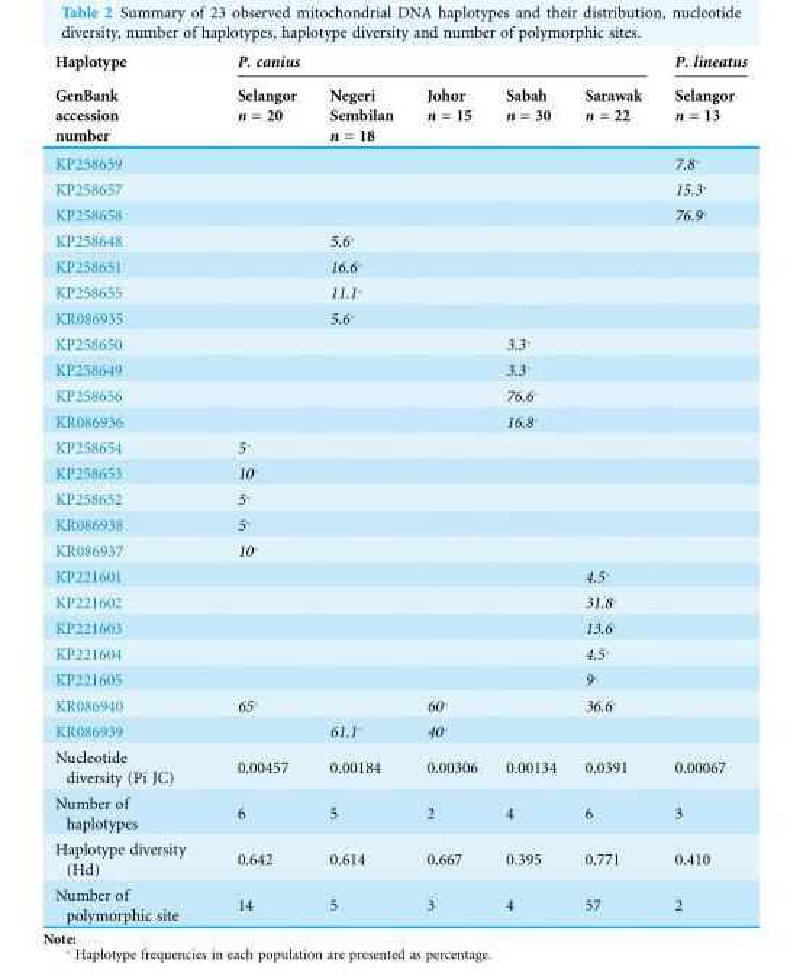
<table><thead><tr><td rowspan="2">Haplotype GenBank accession number</td><td colspan="5">P. canius</td><td rowspan="2">P. lineatus Selangor n = 13</td></tr><tr><td>Selangor n = 20</td><td>Negeri Sembilan n = 18</td><td>Johor n = 15</td><td>Sabah n = 30</td><td>Sarawak n = 22</td></tr></thead><tbody><tr><td>KP258659</td><td></td><td></td><td></td><td></td><td></td><td>7.8*</td></tr><tr><td>KP258657</td><td></td><td></td><td></td><td></td><td></td><td>15.3*</td></tr><tr><td>KP258658</td><td></td><td></td><td></td><td></td><td></td><td>76.9*</td></tr><tr><td>KP258648</td><td></td><td>5.6*</td><td></td><td></td><td></td><td></td></tr><tr><td>KP258651</td><td></td><td>16.6*</td><td></td><td></td><td></td><td></td></tr><tr><td>KP258655</td><td></td><td>11.1*</td><td></td><td></td><td></td><td></td></tr><tr><td>KR086935</td><td></td><td>5.6*</td><td></td><td></td><td></td><td></td></tr><tr><td>KP258650</td><td></td><td></td><td></td><td>3.3*</td><td></td><td></td></tr><tr><td>KP258649</td><td></td><td></td><td></td><td>3.3*</td><td></td><td></td></tr><tr><td>KP258656</td><td></td><td></td><td></td><td>76.6*</td><td></td><td></td></tr><tr><td>KR086936</td><td></td><td></td><td></td><td>16.8*</td><td></td><td></td></tr><tr><td>KP258654</td><td>5*</td><td></td><td></td><td></td><td></td><td></td></tr><tr><td>KP258653</td><td>10*</td><td></td><td></td><td></td><td></td><td></td></tr><tr><td>KP258652</td><td>5*</td><td></td><td></td><td></td><td></td><td></td></tr><tr><td>KR086938</td><td>5*</td><td></td><td></td><td></td><td></td><td></td></tr><tr><td>KR086937</td><td>10*</td><td></td><td></td><td></td><td></td><td></td></tr><tr><td>KP221601</td><td></td><td></td><td></td><td></td><td>4.5*</td><td></td></tr><tr><td>KP221602</td><td></td><td></td><td></td><td></td><td>31.8*</td><td></td></tr><tr><td>KP221603</td><td></td><td></td><td></td><td></td><td>13.6*</td><td></td></tr><tr><td>KP221604</td><td></td><td></td><td></td><td></td><td>4.5*</td><td></td></tr><tr><td>KP221605</td><td></td><td></td><td></td><td></td><td>9*</td><td></td></tr><tr><td>KR086940</td><td>65*</td><td></td><td>60*</td><td></td><td>36.6*</td><td></td></tr><tr><td>KR086939</td><td></td><td>61.1*</td><td>40*</td><td></td><td></td><td></td></tr><tr><td>Nucleotide diversity (Pi JC)</td><td>0.00457</td><td>0.00184</td><td>0.00306</td><td>0.00134</td><td>0.0391</td><td>0.00067</td></tr><tr><td>Number of haplotypes</td><td>6</td><td>5</td><td>2</td><td>4</td><td>6</td><td>3</td></tr><tr><td>Haplotype diversity (Hd)</td><td>0.642</td><td>0.614</td><td>0.667</td><td>0.395</td><td>0.771</td><td>0.410</td></tr><tr><td>Number of polymorphic site</td><td>14</td><td>5</td><td>3</td><td>4</td><td>57</td><td>2</td></tr></tbody></table>